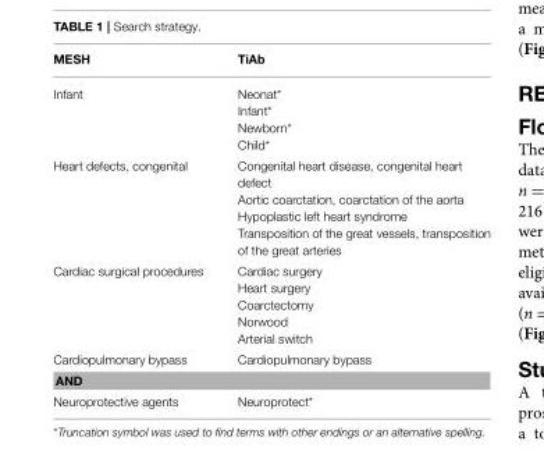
<table><thead><tr><td>MESH</td><td>TiAb</td></tr></thead><tbody><tr><td>Infant</td><td>Neonat* Infant* Newborn* Child*</td></tr><tr><td>Heart defects, congenital</td><td>Congenital heart disease, congenital heart defect Aortic coarctation, coarctation of the aorta Hypoplastic left heart syndrome Transposition of the great vessels, transposition of the great arteries</td></tr><tr><td>Cardiac surgical procedures</td><td>Cardiac surgery Heart surgery Coarctectomy Norwood Arterial switch</td></tr><tr><td>Cardiopulmonary bypass</td><td>Cardiopulmonary bypass</td></tr><tr><td colspan="2">AND</td></tr><tr><td>Neuroprotective agents</td><td>Neuroprotect*</td></tr></tbody></table>